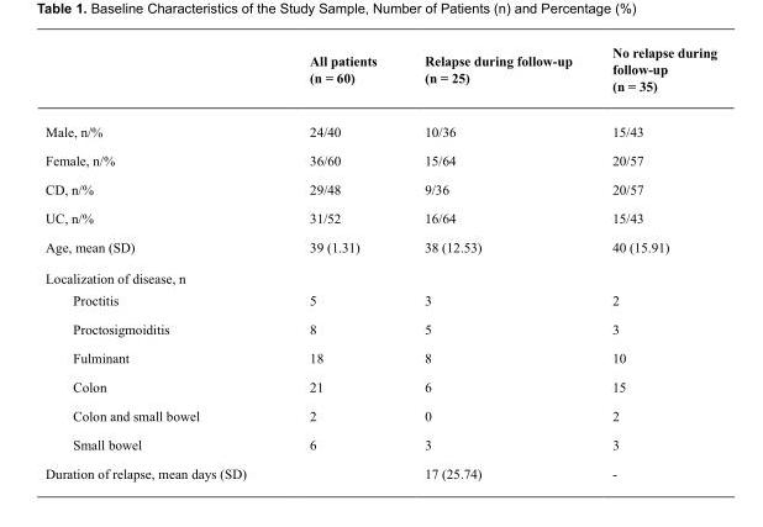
<table><thead><tr><td></td><td>All patients (n = 60)</td><td>Relapse during follow-up (n = 25)</td><td>No relapse during follow-up (n = 35)</td></tr></thead><tbody><tr><td>Male, n/%</td><td>24/40</td><td>10/36</td><td>15/43</td></tr><tr><td>Female, n/%</td><td>36/60</td><td>15/64</td><td>20/57</td></tr><tr><td>CD, n/%</td><td>29/48</td><td>9/36</td><td>20/57</td></tr><tr><td>UC, n/%</td><td>31/52</td><td>16/64</td><td>15/43</td></tr><tr><td>Age, mean (SD)</td><td>39 (1.31)</td><td>38 (12.53)</td><td>40 (15.91)</td></tr><tr><td colspan="4">Localization of disease, n</td></tr><tr><td>Proctitis</td><td>5</td><td>3</td><td>2</td></tr><tr><td>Proctosigmoiditis</td><td>8</td><td>5</td><td>3</td></tr><tr><td>Fulminant</td><td>18</td><td>8</td><td>10</td></tr><tr><td>Colon</td><td>21</td><td>6</td><td>15</td></tr><tr><td>Colon and small bowel</td><td>2</td><td>0</td><td>2</td></tr><tr><td>Small bowel</td><td>6</td><td>3</td><td>3</td></tr><tr><td>Duration of relapse, mean days (SD)</td><td></td><td>17 (25.74)</td><td>-</td></tr></tbody></table>